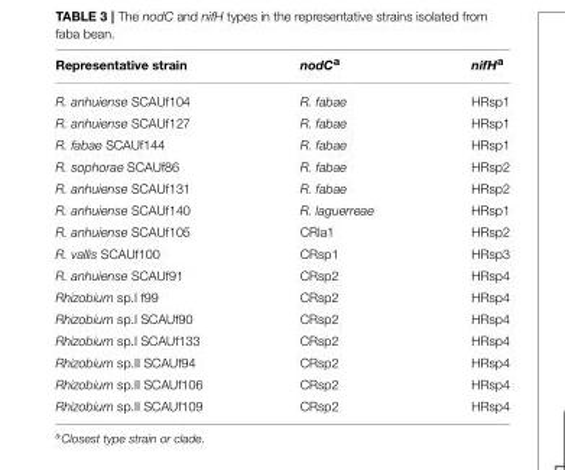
<table><thead><tr><td>Representative strain</td><td>nodC<sup>a</sup></td><td>nifH<sup>a</sup></td></tr></thead><tbody><tr><td>R. anhuiense SCAUf104</td><td>R. fabae</td><td>HRsp1</td></tr><tr><td>R. anhuiense SCAUf127</td><td>R. fabae</td><td>HRsp1</td></tr><tr><td>R. fabae SCAUf144</td><td>R. fabae</td><td>HRsp1</td></tr><tr><td>R. sophorae SCAUf86</td><td>R. fabae</td><td>HRsp2</td></tr><tr><td>R. anhuiense SCAUf131</td><td>R. fabae</td><td>HRsp2</td></tr><tr><td>R. anhuiense SCAUf140</td><td>R. laguerreae</td><td>HRsp1</td></tr><tr><td>R. anhuiense SCAUf105</td><td>CRla1</td><td>HRsp2</td></tr><tr><td>R. vallis SCAUf100</td><td>CRsp1</td><td>HRsp3</td></tr><tr><td>R. anhuiense SCAUf91</td><td>CRsp2</td><td>HRsp4</td></tr><tr><td>Rhizobium sp.I f99</td><td>CRsp2</td><td>HRsp4</td></tr><tr><td>Rhizobium sp.I SCAUf90</td><td>CRsp2</td><td>HRsp4</td></tr><tr><td>Rhizobium sp.I SCAUf133</td><td>CRsp2</td><td>HRsp4</td></tr><tr><td>Rhizobium sp.II SCAUf94</td><td>CRsp2</td><td>HRsp4</td></tr><tr><td>Rhizobium sp.II SCAUf106</td><td>CRsp2</td><td>HRsp4</td></tr><tr><td>Rhizobium sp.II SCAUf109</td><td>CRsp2</td><td>HRsp4</td></tr></tbody></table>